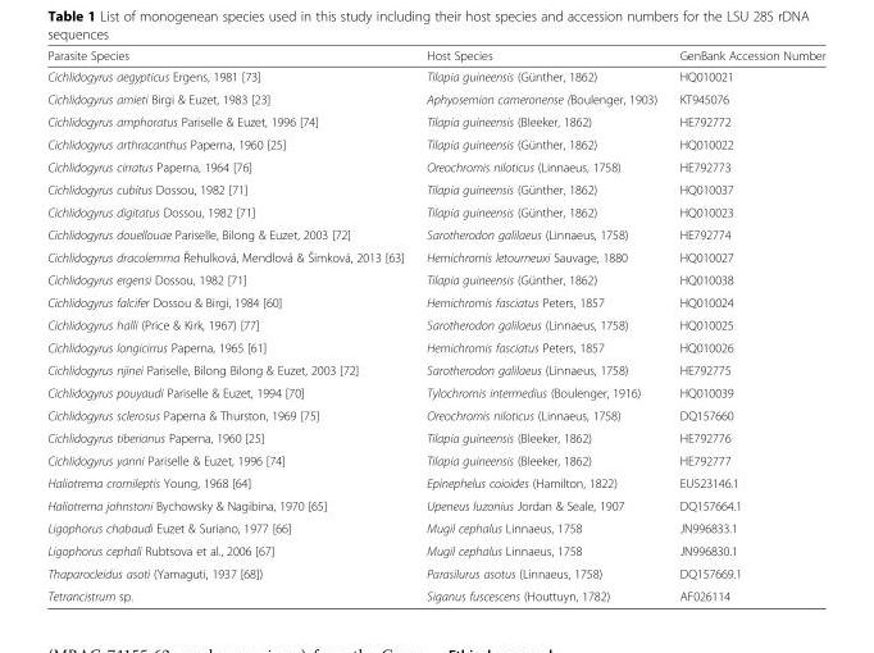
<table><thead><tr><td>Parasite Species</td><td>Host Species</td><td>GenBank Accession Number</td></tr></thead><tbody><tr><td>Cichlidogyrus aegypticus Ergens, 1981 [73]</td><td>Tilapia guineensis (Günther, 1862)</td><td>HQ010021</td></tr><tr><td>Cichlidogyrus amieti Birgi &amp; Euzet, 1983 [23]</td><td>Aphyosemion cameronense (Boulenger, 1903)</td><td>KT945076</td></tr><tr><td>Cichlidogyrus amphoratus Pariselle &amp; Euzet, 1996 [74]</td><td>Tilapia guineensis (Bleeker, 1862)</td><td>HE792772</td></tr><tr><td>Cichlidogyrus arthracanthus Paperna, 1960 [25]</td><td>Tilapia guineensis (Günther, 1862)</td><td>HQ010022</td></tr><tr><td>Cichlidogyrus cirratus Paperna, 1964 [76]</td><td>Oreochromis niloticus (Linnaeus, 1758)</td><td>HE792773</td></tr><tr><td>Cichlidogyrus cubitus Dossou, 1982 [71]</td><td>Tilapia guineensis (Günther, 1862)</td><td>HQ010037</td></tr><tr><td>Cichlidogyrus digitatus Dossou, 1982 [71]</td><td>Tilapia guineensis (Günther, 1862)</td><td>HQ010023</td></tr><tr><td>Cichlidogyrus douellouae Pariselle, Bilong &amp; Euzet, 2003 [72]</td><td>Sarotherodon galilaeus (Linnaeus, 1758)</td><td>HE792774</td></tr><tr><td>Cichlidogyrus dracolemma Řehulková, Mendlová &amp; Šimková, 2013 [63]</td><td>Hemichromis letourneuxi Sauvage, 1880</td><td>HQ010027</td></tr><tr><td>Cichlidogyrus ergensi Dossou, 1982 [71]</td><td>Tilapia guineensis (Günther, 1862)</td><td>HQ010038</td></tr><tr><td>Cichlidogyrus falcifer Dossou &amp; Birgi, 1984 [60]</td><td>Hemichromis fasciatus Peters, 1857</td><td>HQ010024</td></tr><tr><td>Cichlidogyrus halli (Price &amp; Kirk, 1967) [77]</td><td>Sarotherodon galilaeus (Linnaeus, 1758)</td><td>HQ010025</td></tr><tr><td>Cichlidogyrus longicirrus Paperna, 1965 [61]</td><td>Hemichromis fasciatus Peters, 1857</td><td>HQ010026</td></tr><tr><td>Cichlidogyrus njinei Pariselle, Bilong Bilong &amp; Euzet, 2003 [72]</td><td>Sarotherodon galilaeus (Linnaeus, 1758)</td><td>HE792775</td></tr><tr><td>Cichlidogyrus pouyaudi Pariselle &amp; Euzet, 1994 [70]</td><td>Tylochromis intermedius (Boulenger, 1916)</td><td>HQ010039</td></tr><tr><td>Cichlidogyrus sclerosus Paperna &amp; Thurston, 1969 [75]</td><td>Oreochromis niloticus (Linnaeus, 1758)</td><td>DQ157660</td></tr><tr><td>Cichlidogyrus tiberianus Paperna, 1960 [25]</td><td>Tilapia guineensis (Bleeker, 1862)</td><td>HE792776</td></tr><tr><td>Cichlidogyrus yanni Pariselle &amp; Euzet, 1996 [74]</td><td>Tilapia guineensis (Bleeker, 1862)</td><td>HE792777</td></tr><tr><td>Haliotrema cromileptis Young, 1968 [64]</td><td>Epinephelus coioides (Hamilton, 1822)</td><td>EU523146.1</td></tr><tr><td>Haliotrema johnstoni Bychowsky &amp; Nagibina, 1970 [65]</td><td>Upeneus luzonius Jordan &amp; Seale, 1907</td><td>DQ157664.1</td></tr><tr><td>Ligophorus chabaudi Euzet &amp; Suriano, 1977 [66]</td><td>Mugil cephalus Linnaeus, 1758</td><td>JN996833.1</td></tr><tr><td>Ligophorus cephali Rubtsova et al., 2006 [67]</td><td>Mugil cephalus Linnaeus, 1758</td><td>JN996830.1</td></tr><tr><td>Thaparocleidus asoti (Yamaguti, 1937 [68])</td><td>Parasilurus asotus (Linnaeus, 1758)</td><td>DQ157669.1</td></tr><tr><td>Tetrancistrum sp.</td><td>Siganus fuscescens (Houttuyn, 1782)</td><td>AF026114</td></tr></tbody></table>